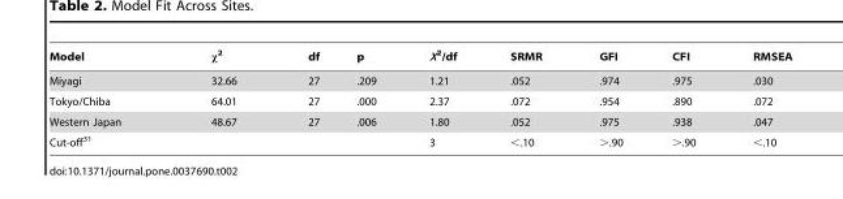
<table><thead><tr><td>Model</td><td>χ<sup>2</sup></td><td>df</td><td>p</td><td>X<sup>2</sup>/df</td><td>SRMR</td><td>GFI</td><td>CFI</td><td>RMSEA</td></tr></thead><tbody><tr><td>Miyagi</td><td>32.66</td><td>27</td><td>.209</td><td>1.21</td><td>.052</td><td>.974</td><td>.975</td><td>.030</td></tr><tr><td>Tokyo/Chiba</td><td>64.01</td><td>27</td><td>.000</td><td>2.37</td><td>.072</td><td>.954</td><td>.890</td><td>.072</td></tr><tr><td>Western Japan</td><td>48.67</td><td>27</td><td>.006</td><td>1.80</td><td>.052</td><td>.975</td><td>.938</td><td>.047</td></tr><tr><td>Cut-off<sup>31</sup></td><td></td><td></td><td></td><td>3</td><td>&lt;.10</td><td>&gt;.90</td><td>&gt;.90</td><td>&lt;.10</td></tr></tbody></table>